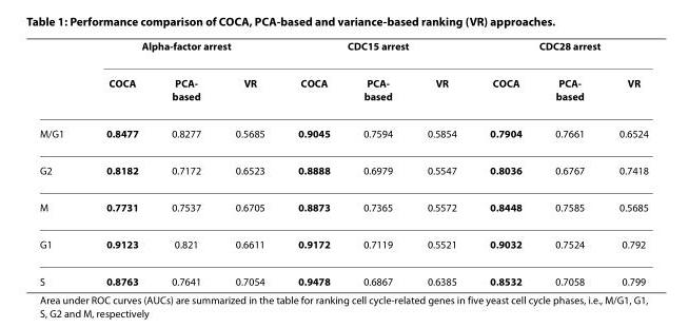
<table><thead><tr><td rowspan="2"></td><td colspan="3">Alpha-factor arrest</td><td colspan="3">CDC15 arrest</td><td colspan="3">CDC28 arrest</td></tr><tr><td>COCA</td><td>PCA- based</td><td>VR</td><td>COCA</td><td>PCA- based</td><td>VR</td><td>COCA</td><td>PCA- based</td><td>VR</td></tr></thead><tbody><tr><td>M/G1</td><td>0.8477</td><td>0.8277</td><td>0.5685</td><td>0.9045</td><td>0.7594</td><td>0.5854</td><td>0.7904</td><td>0.7661</td><td>0.6524</td></tr><tr><td>G2</td><td>0.8182</td><td>0.7172</td><td>0.6523</td><td>0.8888</td><td>0.6979</td><td>0.5547</td><td>0.8036</td><td>0.6767</td><td>0.7418</td></tr><tr><td>M</td><td>0.7731</td><td>0.7537</td><td>0.6705</td><td>0.8873</td><td>0.7365</td><td>0.5572</td><td>0.8448</td><td>0.7585</td><td>0.5685</td></tr><tr><td>G1</td><td>0.9123</td><td>0.821</td><td>0.6611</td><td>0.9172</td><td>0.7119</td><td>0.5521</td><td>0.9032</td><td>0.7524</td><td>0.792</td></tr><tr><td>S</td><td>0.8763</td><td>0.7641</td><td>0.7054</td><td>0.9478</td><td>0.6867</td><td>0.6385</td><td>0.8532</td><td>0.7058</td><td>0.799</td></tr></tbody></table>